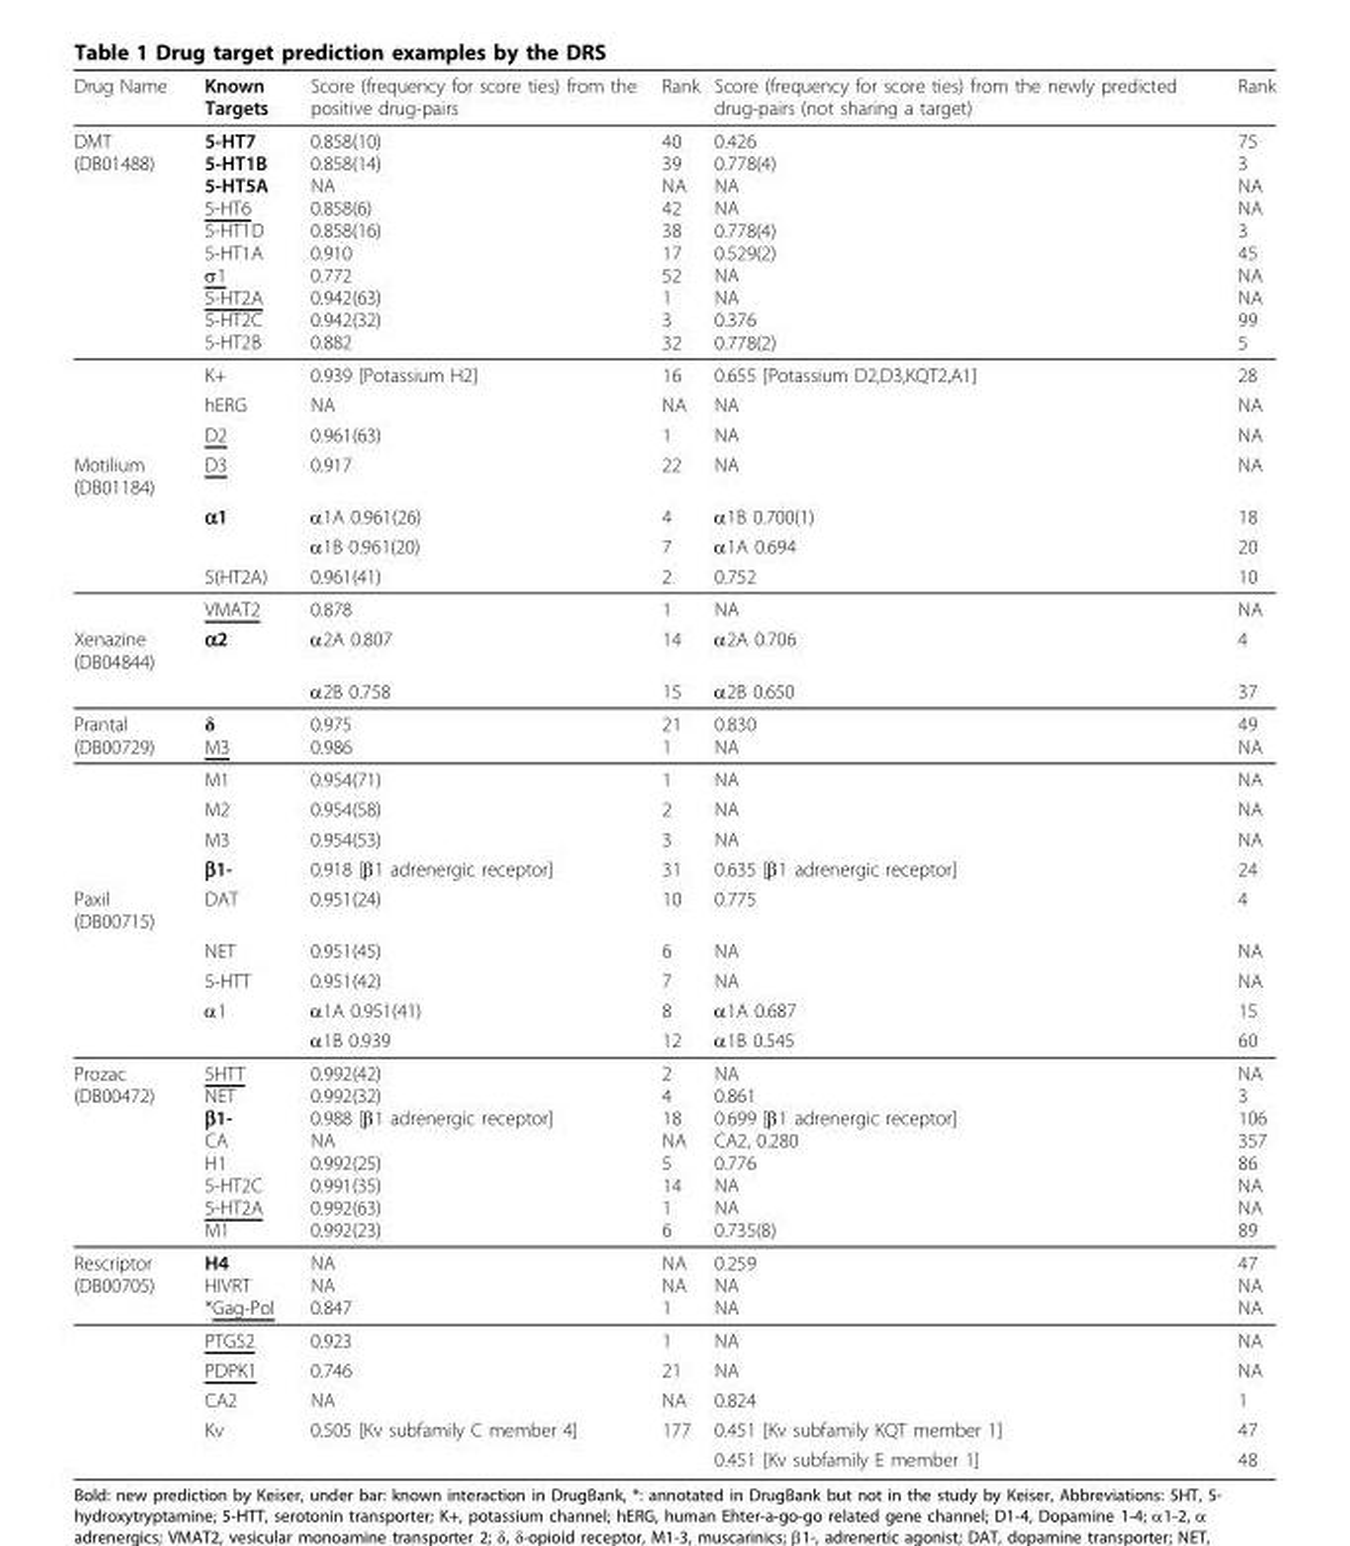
<table><thead><tr><td>Drug Name</td><td>Known Targets</td><td>Score (frequency for score ties) from the positive drug-pairs</td><td>Rank</td><td>Score (frequency for score ties) from the newly predicted drug-pairs (not sharing a target)</td><td>Rank</td></tr></thead><tbody><tr><td rowspan="4">DMT (DB01488)</td><td>5-HT7 5-HT1B 5-HT5A 5-HT6 5-HT1D 5-HT1A σ1 5-HT2A 5-HT2C 5-HT2B</td><td>0.858(10) 0.858(14) NA 0.858(6) 0.858(16) 0.910 0.772 0.942(63) 0.942(32) 0.882</td><td>40 39 NA 42 38 17 52 1 3 32</td><td>0.426 0.778(4) NA NA 0.778(4) 0.529(2) NA NA 0.376 0.778(2)</td><td>75 3 NA NA 3 45 NA NA 99 5</td></tr><tr><td>K+</td><td>0.939 [Potassium H2]</td><td>16</td><td>0.655 [Potassium D2,D3,KQT2,A1]</td><td>28</td></tr><tr><td>hERG</td><td>NA</td><td>NA</td><td>NA</td><td>NA</td></tr><tr><td>D2</td><td>0.961(63)</td><td>1</td><td>NA</td><td>NA</td></tr><tr><td rowspan="5">Motilium (DB01184)</td><td>D3</td><td>0.917</td><td>22</td><td>NA</td><td>NA</td></tr><tr><td>α1</td><td>α1A 0.961(26)</td><td>4</td><td>α1B 0.700(1)</td><td>18</td></tr><tr><td></td><td>α1B 0.961(20)</td><td>7</td><td>α1A 0.694</td><td>20</td></tr><tr><td>5(HT2A)</td><td>0.961(41)</td><td>2</td><td>0.752</td><td>10</td></tr><tr><td>VMAT2</td><td>0.878</td><td>1</td><td>NA</td><td>NA</td></tr><tr><td rowspan="2">Xenazine (DB04844)</td><td>α2</td><td>α2A 0.807</td><td>14</td><td>α2A 0.706</td><td>4</td></tr><tr><td></td><td>α2B 0.758</td><td>15</td><td>α2B 0.650</td><td>37</td></tr><tr><td rowspan="5">Prantal (DB00729)</td><td>δ M3</td><td>0.975 0.986</td><td>21 1</td><td>0.830 NA</td><td>49 NA</td></tr><tr><td>M1</td><td>0.954(71)</td><td>1</td><td>NA</td><td>NA</td></tr><tr><td>M2</td><td>0.954(58)</td><td>2</td><td>NA</td><td>NA</td></tr><tr><td>M3</td><td>0.954(53)</td><td>3</td><td>NA</td><td>NA</td></tr><tr><td>β1-</td><td>0.918 [β1 adrenergic receptor]</td><td>31</td><td>0.635 [β1 adrenergic receptor]</td><td>24</td></tr><tr><td rowspan="5">Paxil (DB00715)</td><td>DAT</td><td>0.951(24)</td><td>10</td><td>0.775</td><td>4</td></tr><tr><td>NET</td><td>0.951(45)</td><td>6</td><td>NA</td><td>NA</td></tr><tr><td>5-HTT</td><td>0.951(42)</td><td>7</td><td>NA</td><td>NA</td></tr><tr><td>α1</td><td>α1A 0.951(41)</td><td>8</td><td>α1A 0.687</td><td>15</td></tr><tr><td></td><td>α1B 0.939</td><td>12</td><td>α1B 0.545</td><td>60</td></tr><tr><td>Prozac (DB00472)</td><td>5HTT NET β1- CA H1 5-HT2C 5-HT2A M1</td><td>0.992(42) 0.992(32) 0.988 [β1 adrenergic receptor] NA 0.992(25) 0.991(35) 0.992(63) 0.992(23)</td><td>2 4 18 NA 5 14 1 6</td><td>NA 0.861 0.699 [β1 adrenergic receptor] CA2, 0.280 0.776 NA NA 0.735(8)</td><td>NA 3 106 357 86 NA NA 89</td></tr><tr><td rowspan="6">Rescriptor (DB00705)</td><td>H4 HIVRT *Gag-Pol</td><td>NA NA 0.847</td><td>NA NA 1</td><td>0.259 NA NA</td><td>47 NA NA</td></tr><tr><td>PTGS2</td><td>0.923</td><td>1</td><td>NA</td><td>NA</td></tr><tr><td>PDPK1</td><td>0.746</td><td>21</td><td>NA</td><td>NA</td></tr><tr><td>CA2</td><td>NA</td><td>NA</td><td>0.824</td><td>1</td></tr><tr><td>Kv</td><td>0.505 [Kv subfamily C member 4]</td><td>177</td><td>0.451 [Kv subfamily KQT member 1]</td><td>47</td></tr><tr><td></td><td></td><td></td><td>0.451 [Kv subfamily E member 1]</td><td>48</td></tr></tbody></table>